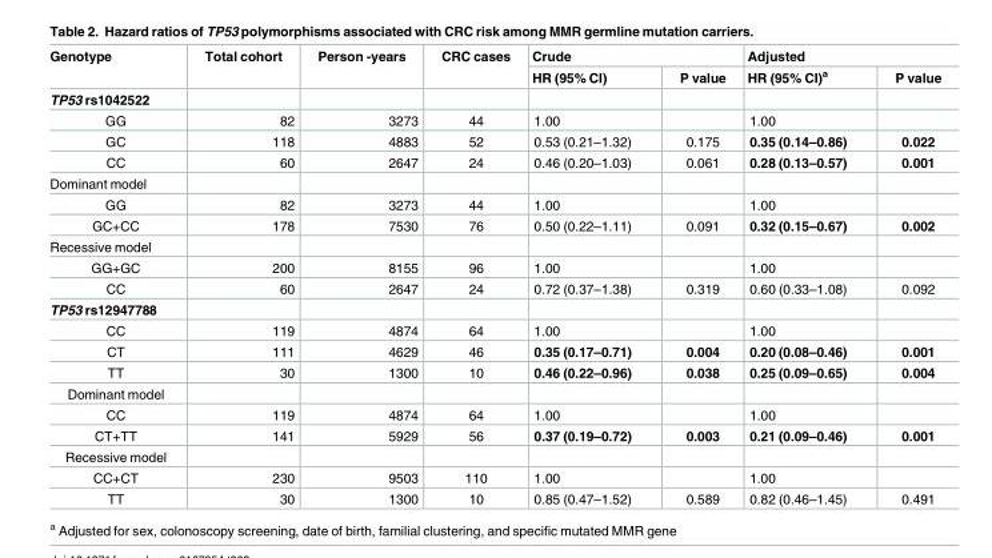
<table><thead><tr><td rowspan="2">Genotype</td><td rowspan="2">Total cohort</td><td rowspan="2">Person -years</td><td rowspan="2">CRC cases</td><td colspan="2">Crude</td><td colspan="2">Adjusted</td></tr><tr><td>HR (95% CI)</td><td>P value</td><td>HR (95% CI)<sup>a</sup></td><td>P value</td></tr></thead><tbody><tr><td colspan="8">TP53 rs1042522</td></tr><tr><td>GG</td><td>82</td><td>3273</td><td>44</td><td>1.00</td><td></td><td>1.00</td><td></td></tr><tr><td>GC</td><td>118</td><td>4883</td><td>52</td><td>0.53 (0.21–1.32)</td><td>0.175</td><td>0.35 (0.14–0.86)</td><td>0.022</td></tr><tr><td>CC</td><td>60</td><td>2647</td><td>24</td><td>0.46 (0.20–1.03)</td><td>0.061</td><td>0.28 (0.13–0.57)</td><td>0.001</td></tr><tr><td colspan="8">Dominant model</td></tr><tr><td>GG</td><td>82</td><td>3273</td><td>44</td><td>1.00</td><td></td><td>1.00</td><td></td></tr><tr><td>GC+CC</td><td>178</td><td>7530</td><td>76</td><td>0.50 (0.22–1.11)</td><td>0.091</td><td>0.32 (0.15–0.67)</td><td>0.002</td></tr><tr><td colspan="8">Recessive model</td></tr><tr><td>GG+GC</td><td>200</td><td>8155</td><td>96</td><td>1.00</td><td></td><td>1.00</td><td></td></tr><tr><td>CC</td><td>60</td><td>2647</td><td>24</td><td>0.72 (0.37–1.38)</td><td>0.319</td><td>0.60 (0.33–1.08)</td><td>0.092</td></tr><tr><td colspan="8">TP53 rs12947788</td></tr><tr><td>CC</td><td>119</td><td>4874</td><td>64</td><td>1.00</td><td></td><td>1.00</td><td></td></tr><tr><td>CT</td><td>111</td><td>4629</td><td>46</td><td>0.35 (0.17–0.71)</td><td>0.004</td><td>0.20 (0.08–0.46)</td><td>0.001</td></tr><tr><td>TT</td><td>30</td><td>1300</td><td>10</td><td>0.46 (0.22–0.96)</td><td>0.038</td><td>0.25 (0.09–0.65)</td><td>0.004</td></tr><tr><td colspan="8">Dominant model</td></tr><tr><td>CC</td><td>119</td><td>4874</td><td>64</td><td>1.00</td><td></td><td>1.00</td><td></td></tr><tr><td>CT+TT</td><td>141</td><td>5929</td><td>56</td><td>0.37 (0.19–0.72)</td><td>0.003</td><td>0.21 (0.09–0.46)</td><td>0.001</td></tr><tr><td colspan="8">Recessive model</td></tr><tr><td>CC+CT</td><td>230</td><td>9503</td><td>110</td><td>1.00</td><td></td><td>1.00</td><td></td></tr><tr><td>TT</td><td>30</td><td>1300</td><td>10</td><td>0.85 (0.47–1.52)</td><td>0.589</td><td>0.82 (0.46–1.45)</td><td>0.491</td></tr></tbody></table>